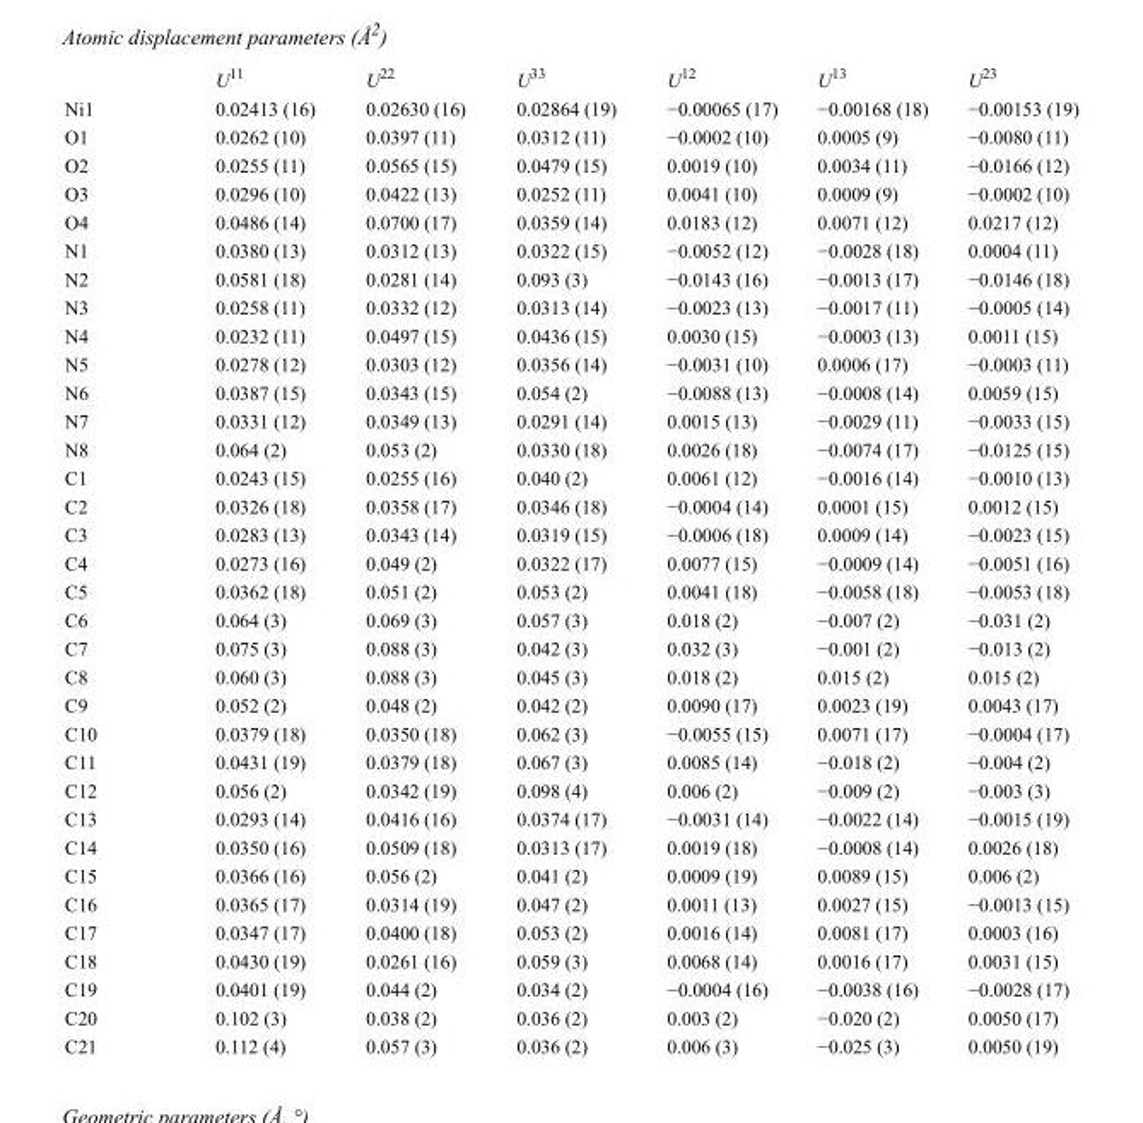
<table><thead><tr><td></td><td>U<sup>11</sup></td><td>U<sup>22</sup></td><td>U<sup>33</sup></td><td>U<sup>12</sup></td><td>U<sup>13</sup></td><td>U<sup>23</sup></td></tr></thead><tbody><tr><td>Ni1</td><td>0.02413 (16)</td><td>0.02630 (16)</td><td>0.02864 (19)</td><td>−0.00065 (17)</td><td>−0.00168 (18)</td><td>−0.00153 (19)</td></tr><tr><td>O1</td><td>0.0262 (10)</td><td>0.0397 (11)</td><td>0.0312 (11)</td><td>−0.0002 (10)</td><td>0.0005 (9)</td><td>−0.0080 (11)</td></tr><tr><td>O2</td><td>0.0255 (11)</td><td>0.0565 (15)</td><td>0.0479 (15)</td><td>0.0019 (10)</td><td>0.0034 (11)</td><td>−0.0166 (12)</td></tr><tr><td>O3</td><td>0.0296 (10)</td><td>0.0422 (13)</td><td>0.0252 (11)</td><td>0.0041 (10)</td><td>0.0009 (9)</td><td>−0.0002 (10)</td></tr><tr><td>O4</td><td>0.0486 (14)</td><td>0.0700 (17)</td><td>0.0359 (14)</td><td>0.0183 (12)</td><td>0.0071 (12)</td><td>0.0217 (12)</td></tr><tr><td>N1</td><td>0.0380 (13)</td><td>0.0312 (13)</td><td>0.0322 (15)</td><td>−0.0052 (12)</td><td>−0.0028 (18)</td><td>0.0004 (11)</td></tr><tr><td>N2</td><td>0.0581 (18)</td><td>0.0281 (14)</td><td>0.093 (3)</td><td>−0.0143 (16)</td><td>−0.0013 (17)</td><td>−0.0146 (18)</td></tr><tr><td>N3</td><td>0.0258 (11)</td><td>0.0332 (12)</td><td>0.0313 (14)</td><td>−0.0023 (13)</td><td>−0.0017 (11)</td><td>−0.0005 (14)</td></tr><tr><td>N4</td><td>0.0232 (11)</td><td>0.0497 (15)</td><td>0.0436 (15)</td><td>0.0030 (15)</td><td>−0.0003 (13)</td><td>0.0011 (15)</td></tr><tr><td>N5</td><td>0.0278 (12)</td><td>0.0303 (12)</td><td>0.0356 (14)</td><td>−0.0031 (10)</td><td>0.0006 (17)</td><td>−0.0003 (11)</td></tr><tr><td>N6</td><td>0.0387 (15)</td><td>0.0343 (15)</td><td>0.054 (2)</td><td>−0.0088 (13)</td><td>−0.0008 (14)</td><td>0.0059 (15)</td></tr><tr><td>N7</td><td>0.0331 (12)</td><td>0.0349 (13)</td><td>0.0291 (14)</td><td>0.0015 (13)</td><td>−0.0029 (11)</td><td>−0.0033 (15)</td></tr><tr><td>N8</td><td>0.064 (2)</td><td>0.053 (2)</td><td>0.0330 (18)</td><td>0.0026 (18)</td><td>−0.0074 (17)</td><td>−0.0125 (15)</td></tr><tr><td>C1</td><td>0.0243 (15)</td><td>0.0255 (16)</td><td>0.040 (2)</td><td>0.0061 (12)</td><td>−0.0016 (14)</td><td>−0.0010 (13)</td></tr><tr><td>C2</td><td>0.0326 (18)</td><td>0.0358 (17)</td><td>0.0346 (18)</td><td>−0.0004 (14)</td><td>0.0001 (15)</td><td>0.0012 (15)</td></tr><tr><td>C3</td><td>0.0283 (13)</td><td>0.0343 (14)</td><td>0.0319 (15)</td><td>−0.0006 (18)</td><td>0.0009 (14)</td><td>−0.0023 (15)</td></tr><tr><td>C4</td><td>0.0273 (16)</td><td>0.049 (2)</td><td>0.0322 (17)</td><td>0.0077 (15)</td><td>−0.0009 (14)</td><td>−0.0051 (16)</td></tr><tr><td>C5</td><td>0.0362 (18)</td><td>0.051 (2)</td><td>0.053 (2)</td><td>0.0041 (18)</td><td>−0.0058 (18)</td><td>−0.0053 (18)</td></tr><tr><td>C6</td><td>0.064 (3)</td><td>0.069 (3)</td><td>0.057 (3)</td><td>0.018 (2)</td><td>−0.007 (2)</td><td>−0.031 (2)</td></tr><tr><td>C7</td><td>0.075 (3)</td><td>0.088 (3)</td><td>0.042 (3)</td><td>0.032 (3)</td><td>−0.001 (2)</td><td>−0.013 (2)</td></tr><tr><td>C8</td><td>0.060 (3)</td><td>0.088 (3)</td><td>0.045 (3)</td><td>0.018 (2)</td><td>0.015 (2)</td><td>0.015 (2)</td></tr><tr><td>C9</td><td>0.052 (2)</td><td>0.048 (2)</td><td>0.042 (2)</td><td>0.0090 (17)</td><td>0.0023 (19)</td><td>0.0043 (17)</td></tr><tr><td>C10</td><td>0.0379 (18)</td><td>0.0350 (18)</td><td>0.062 (3)</td><td>−0.0055 (15)</td><td>0.0071 (17)</td><td>−0.0004 (17)</td></tr><tr><td>C11</td><td>0.0431 (19)</td><td>0.0379 (18)</td><td>0.067 (3)</td><td>0.0085 (14)</td><td>−0.018 (2)</td><td>−0.004 (2)</td></tr><tr><td>C12</td><td>0.056 (2)</td><td>0.0342 (19)</td><td>0.098 (4)</td><td>0.006 (2)</td><td>−0.009 (2)</td><td>−0.003 (3)</td></tr><tr><td>C13</td><td>0.0293 (14)</td><td>0.0416 (16)</td><td>0.0374 (17)</td><td>−0.0031 (14)</td><td>−0.0022 (14)</td><td>−0.0015 (19)</td></tr><tr><td>C14</td><td>0.0350 (16)</td><td>0.0509 (18)</td><td>0.0313 (17)</td><td>0.0019 (18)</td><td>−0.0008 (14)</td><td>0.0026 (18)</td></tr><tr><td>C15</td><td>0.0366 (16)</td><td>0.056 (2)</td><td>0.041 (2)</td><td>0.0009 (19)</td><td>0.0089 (15)</td><td>0.006 (2)</td></tr><tr><td>C16</td><td>0.0365 (17)</td><td>0.0314 (19)</td><td>0.047 (2)</td><td>0.0011 (13)</td><td>0.0027 (15)</td><td>−0.0013 (15)</td></tr><tr><td>C17</td><td>0.0347 (17)</td><td>0.0400 (18)</td><td>0.053 (2)</td><td>0.0016 (14)</td><td>0.0081 (17)</td><td>0.0003 (16)</td></tr><tr><td>C18</td><td>0.0430 (19)</td><td>0.0261 (16)</td><td>0.059 (3)</td><td>0.0068 (14)</td><td>0.0016 (17)</td><td>0.0031 (15)</td></tr><tr><td>C19</td><td>0.0401 (19)</td><td>0.044 (2)</td><td>0.034 (2)</td><td>−0.0004 (16)</td><td>−0.0038 (16)</td><td>−0.0028 (17)</td></tr><tr><td>C20</td><td>0.102 (3)</td><td>0.038 (2)</td><td>0.036 (2)</td><td>0.003 (2)</td><td>−0.020 (2)</td><td>0.0050 (17)</td></tr><tr><td>C21</td><td>0.112 (4)</td><td>0.057 (3)</td><td>0.036 (2)</td><td>0.006 (3)</td><td>−0.025 (3)</td><td>0.0050 (19)</td></tr></tbody></table>